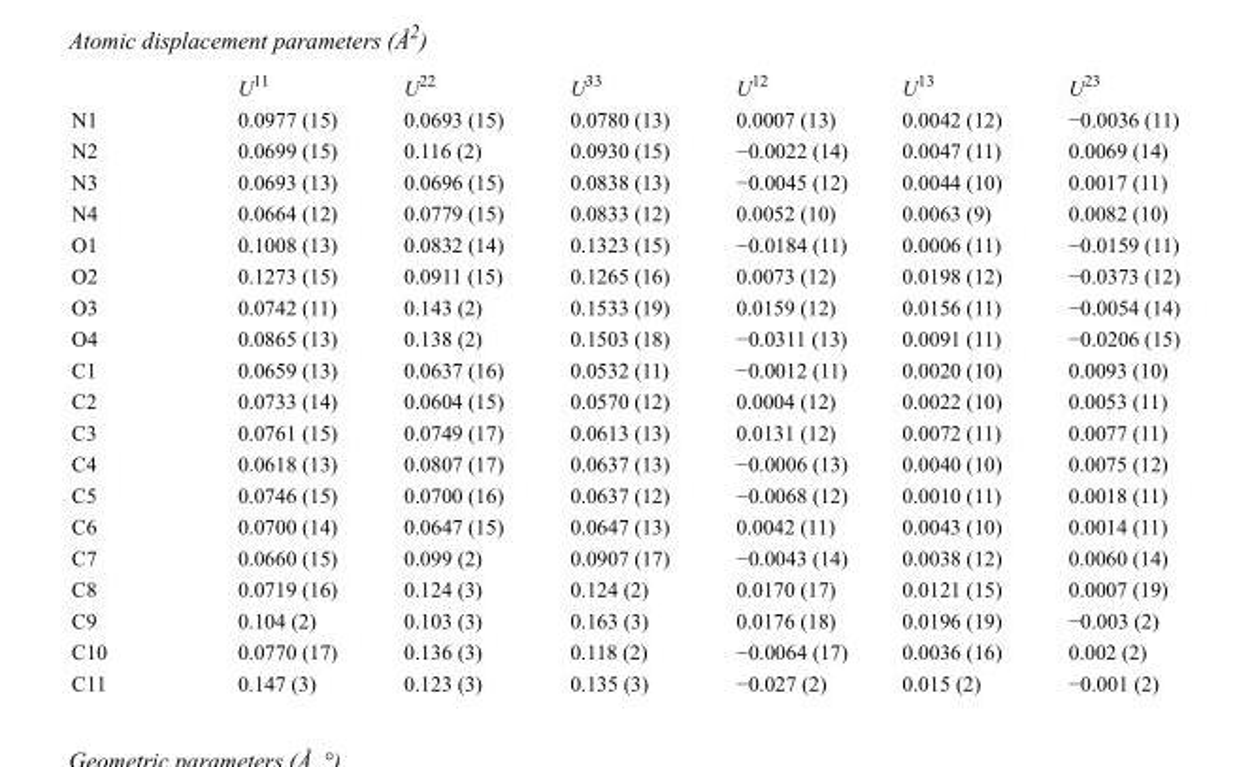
<table><thead><tr><td></td><td>U<sup>11</sup></td><td>U<sup>22</sup></td><td>U<sup>33</sup></td><td>U<sup>12</sup></td><td>U<sup>13</sup></td><td>U<sup>23</sup></td></tr></thead><tbody><tr><td>N1</td><td>0.0977 (15)</td><td>0.0693 (15)</td><td>0.0780 (13)</td><td>0.0007 (13)</td><td>0.0042 (12)</td><td>−0.0036 (11)</td></tr><tr><td>N2</td><td>0.0699 (15)</td><td>0.116 (2)</td><td>0.0930 (15)</td><td>−0.0022 (14)</td><td>0.0047 (11)</td><td>0.0069 (14)</td></tr><tr><td>N3</td><td>0.0693 (13)</td><td>0.0696 (15)</td><td>0.0838 (13)</td><td>−0.0045 (12)</td><td>0.0044 (10)</td><td>0.0017 (11)</td></tr><tr><td>N4</td><td>0.0664 (12)</td><td>0.0779 (15)</td><td>0.0833 (12)</td><td>0.0052 (10)</td><td>0.0063 (9)</td><td>0.0082 (10)</td></tr><tr><td>O1</td><td>0.1008 (13)</td><td>0.0832 (14)</td><td>0.1323 (15)</td><td>−0.0184 (11)</td><td>0.0006 (11)</td><td>−0.0159 (11)</td></tr><tr><td>O2</td><td>0.1273 (15)</td><td>0.0911 (15)</td><td>0.1265 (16)</td><td>0.0073 (12)</td><td>0.0198 (12)</td><td>−0.0373 (12)</td></tr><tr><td>O3</td><td>0.0742 (11)</td><td>0.143 (2)</td><td>0.1533 (19)</td><td>0.0159 (12)</td><td>0.0156 (11)</td><td>−0.0054 (14)</td></tr><tr><td>O4</td><td>0.0865 (13)</td><td>0.138 (2)</td><td>0.1503 (18)</td><td>−0.0311 (13)</td><td>0.0091 (11)</td><td>−0.0206 (15)</td></tr><tr><td>C1</td><td>0.0659 (13)</td><td>0.0637 (16)</td><td>0.0532 (11)</td><td>−0.0012 (11)</td><td>0.0020 (10)</td><td>0.0093 (10)</td></tr><tr><td>C2</td><td>0.0733 (14)</td><td>0.0604 (15)</td><td>0.0570 (12)</td><td>0.0004 (12)</td><td>0.0022 (10)</td><td>0.0053 (11)</td></tr><tr><td>C3</td><td>0.0761 (15)</td><td>0.0749 (17)</td><td>0.0613 (13)</td><td>0.0131 (12)</td><td>0.0072 (11)</td><td>0.0077 (11)</td></tr><tr><td>C4</td><td>0.0618 (13)</td><td>0.0807 (17)</td><td>0.0637 (13)</td><td>−0.0006 (13)</td><td>0.0040 (10)</td><td>0.0075 (12)</td></tr><tr><td>C5</td><td>0.0746 (15)</td><td>0.0700 (16)</td><td>0.0637 (12)</td><td>−0.0068 (12)</td><td>0.0010 (11)</td><td>0.0018 (11)</td></tr><tr><td>C6</td><td>0.0700 (14)</td><td>0.0647 (15)</td><td>0.0647 (13)</td><td>0.0042 (11)</td><td>0.0043 (10)</td><td>0.0014 (11)</td></tr><tr><td>C7</td><td>0.0660 (15)</td><td>0.099 (2)</td><td>0.0907 (17)</td><td>−0.0043 (14)</td><td>0.0038 (12)</td><td>0.0060 (14)</td></tr><tr><td>C8</td><td>0.0719 (16)</td><td>0.124 (3)</td><td>0.124 (2)</td><td>0.0170 (17)</td><td>0.0121 (15)</td><td>0.0007 (19)</td></tr><tr><td>C9</td><td>0.104 (2)</td><td>0.103 (3)</td><td>0.163 (3)</td><td>0.0176 (18)</td><td>0.0196 (19)</td><td>−0.003 (2)</td></tr><tr><td>C10</td><td>0.0770 (17)</td><td>0.136 (3)</td><td>0.118 (2)</td><td>−0.0064 (17)</td><td>0.0036 (16)</td><td>0.002 (2)</td></tr><tr><td>C11</td><td>0.147 (3)</td><td>0.123 (3)</td><td>0.135 (3)</td><td>−0.027 (2)</td><td>0.015 (2)</td><td>−0.001 (2)</td></tr></tbody></table>